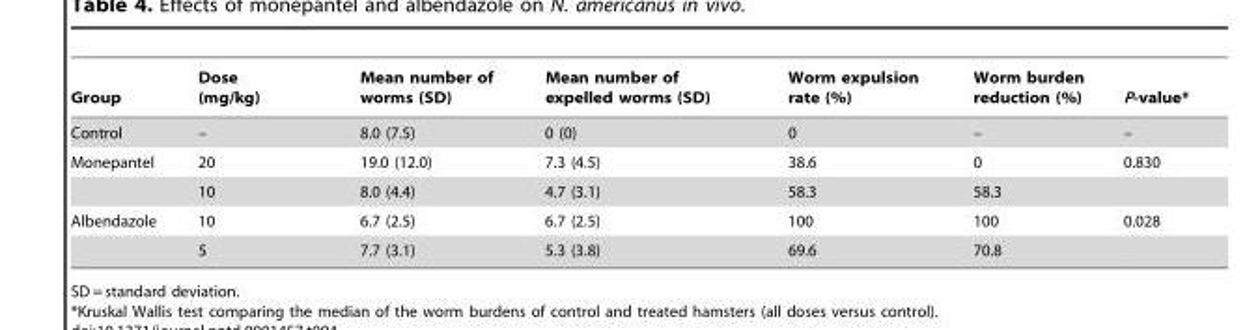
<table><thead><tr><td>Group</td><td>Dose (mg/kg)</td><td>Mean number of worms (SD)</td><td>Mean number of expelled worms (SD)</td><td>Worm expulsion rate (%)</td><td>Worm burden reduction (%)</td><td>P-value*</td></tr></thead><tbody><tr><td>Control</td><td>–</td><td>8.0 (7.5)</td><td>0 (0)</td><td>0</td><td>–</td><td>–</td></tr><tr><td rowspan="2">Monepantel</td><td>20</td><td>19.0 (12.0)</td><td>7.3 (4.5)</td><td>38.6</td><td>0</td><td>0.830</td></tr><tr><td>10</td><td>8.0 (4.4)</td><td>4.7 (3.1)</td><td>58.3</td><td>58.3</td><td></td></tr><tr><td rowspan="2">Albendazole</td><td>10</td><td>6.7 (2.5)</td><td>6.7 (2.5)</td><td>100</td><td>100</td><td>0.028</td></tr><tr><td>5</td><td>7.7 (3.1)</td><td>5.3 (3.8)</td><td>69.6</td><td>70.8</td><td></td></tr></tbody></table>